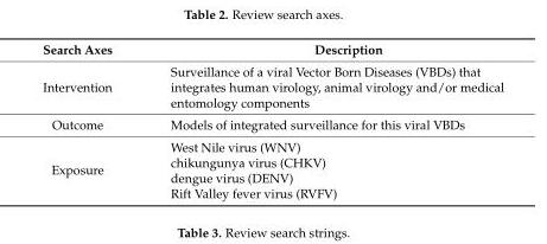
<table><thead><tr><td>Search Axes</td><td>Description</td></tr></thead><tbody><tr><td>Intervention</td><td>Surveillance of a viral Vector Born Diseases (VBDs) that integrates human virology, animal virology and/or medical entomology components</td></tr><tr><td>Outcome</td><td>Models of integrated surveillance for this viral VBDs</td></tr><tr><td rowspan="4">Exposure</td><td>West Nile virus (WNV)</td></tr><tr><td>chikungunya virus (CHKV)</td></tr><tr><td>dengue virus (DENV)</td></tr><tr><td>Rift Valley fever virus (RVFV)</td></tr></tbody></table>